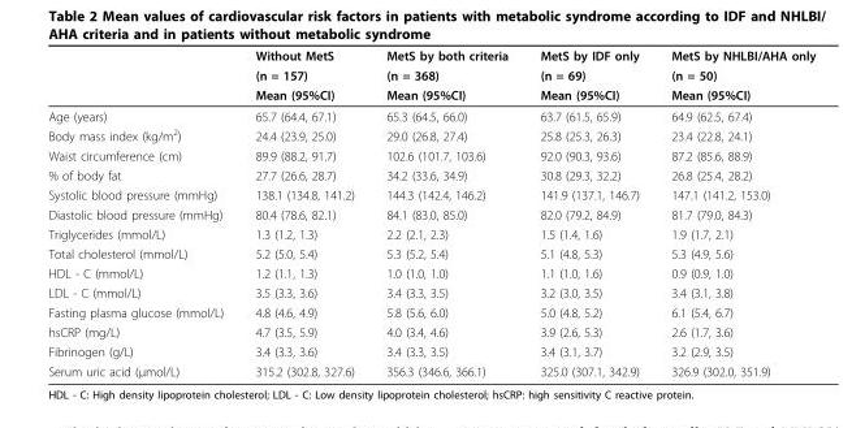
<table><thead><tr><td rowspan="3"></td><td rowspan="3">Without MetS (n = 157) Mean (95%CI)</td><td rowspan="3">MetS by both criteria (n = 368) Mean (95%CI)</td><td rowspan="3">MetS by IDF only (n = 69) Mean (95%CI)</td><td rowspan="3">MetS by NHLBI/AHA only (n = 50) Mean (95%CI)</td></tr><tr></tr><tr></tr></thead><tbody><tr><td>Age (years)</td><td>65.7 (64.4, 67.1)</td><td>65.3 (64.5, 66.0)</td><td>63.7 (61.5, 65.9)</td><td>64.9 (62.5, 67.4)</td></tr><tr><td>Body mass index (kg/m<sup>2</sup>)</td><td>24.4 (23.9, 25.0)</td><td>29.0 (26.8, 27.4)</td><td>25.8 (25.3, 26.3)</td><td>23.4 (22.8, 24.1)</td></tr><tr><td>Waist circumference (cm)</td><td>89.9 (88.2, 91.7)</td><td>102.6 (101.7, 103.6)</td><td>92.0 (90.3, 93.6)</td><td>87.2 (85.6, 88.9)</td></tr><tr><td>% of body fat</td><td>27.7 (26.6, 28.7)</td><td>34.2 (33.6, 34.9)</td><td>30.8 (29.3, 32.2)</td><td>26.8 (25.4, 28.2)</td></tr><tr><td>Systolic blood pressure (mmHg)</td><td>138.1 (134.8, 141.2)</td><td>144.3 (142.4, 146.2)</td><td>141.9 (137.1, 146.7)</td><td>147.1 (141.2, 153.0)</td></tr><tr><td>Diastolic blood pressure (mmHg)</td><td>80.4 (78.6, 82.1)</td><td>84.1 (83.0, 85.0)</td><td>82.0 (79.2, 84.9)</td><td>81.7 (79.0, 84.3)</td></tr><tr><td>Triglycerides (mmol/L)</td><td>1.3 (1.2, 1.3)</td><td>2.2 (2.1, 2.3)</td><td>1.5 (1.4, 1.6)</td><td>1.9 (1.7, 2.1)</td></tr><tr><td>Total cholesterol (mmol/L)</td><td>5.2 (5.0, 5.4)</td><td>5.3 (5.2, 5.4)</td><td>5.1 (4.8, 5.3)</td><td>5.3 (4.9, 5.6)</td></tr><tr><td>HDL - C (mmol/L)</td><td>1.2 (1.1, 1.3)</td><td>1.0 (1.0, 1.0)</td><td>1.1 (1.0, 1.6)</td><td>0.9 (0.9, 1.0)</td></tr><tr><td>LDL - C (mmol/L)</td><td>3.5 (3.3, 3.6)</td><td>3.4 (3.3, 3.5)</td><td>3.2 (3.0, 3.5)</td><td>3.4 (3.1, 3.8)</td></tr><tr><td>Fasting plasma glucose (mmol/L)</td><td>4.8 (4.6, 4.9)</td><td>5.8 (5.6, 6.0)</td><td>5.0 (4.8, 5.2)</td><td>6.1 (5.4, 6.7)</td></tr><tr><td>hsCRP (mg/L)</td><td>4.7 (3.5, 5.9)</td><td>4.0 (3.4, 4.6)</td><td>3.9 (2.6, 5.3)</td><td>2.6 (1.7, 3.6)</td></tr><tr><td>Fibrinogen (g/L)</td><td>3.4 (3.3, 3.6)</td><td>3.4 (3.3, 3.5)</td><td>3.4 (3.1, 3.7)</td><td>3.2 (2.9, 3.5)</td></tr><tr><td>Serum uric acid (μmol/L)</td><td>315.2 (302.8, 327.6)</td><td>356.3 (346.6, 366.1)</td><td>325.0 (307.1, 342.9)</td><td>326.9 (302.0, 351.9)</td></tr></tbody></table>